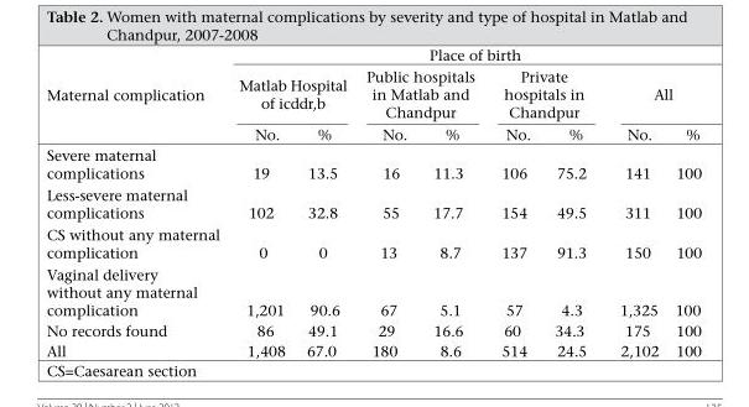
<table><thead><tr><td rowspan="3">Maternal complication</td><td colspan="8">Place of birth</td></tr><tr><td colspan="2">Matlab Hospital of icddr,b</td><td colspan="2">Public hospitals in Matlab and Chandpur</td><td colspan="2">Private hospitals in Chandpur</td><td colspan="2">All</td></tr><tr><td>No.</td><td>%</td><td>No.</td><td>%</td><td>No.</td><td>%</td><td>No.</td><td>%</td></tr></thead><tbody><tr><td>Severe maternal complications</td><td>19</td><td>13.5</td><td>16</td><td>11.3</td><td>106</td><td>75.2</td><td>141</td><td>100</td></tr><tr><td>Less-severe maternal complications</td><td>102</td><td>32.8</td><td>55</td><td>17.7</td><td>154</td><td>49.5</td><td>311</td><td>100</td></tr><tr><td>CS without any maternal complication</td><td>0</td><td>0</td><td>13</td><td>8.7</td><td>137</td><td>91.3</td><td>150</td><td>100</td></tr><tr><td>Vaginal delivery without any maternal complication</td><td>1,201</td><td>90.6</td><td>67</td><td>5.1</td><td>57</td><td>4.3</td><td>1,325</td><td>100</td></tr><tr><td>No records found</td><td>86</td><td>49.1</td><td>29</td><td>16.6</td><td>60</td><td>34.3</td><td>175</td><td>100</td></tr><tr><td>All</td><td>1,408</td><td>67.0</td><td>180</td><td>8.6</td><td>514</td><td>24.5</td><td>2,102</td><td>100</td></tr></tbody></table>